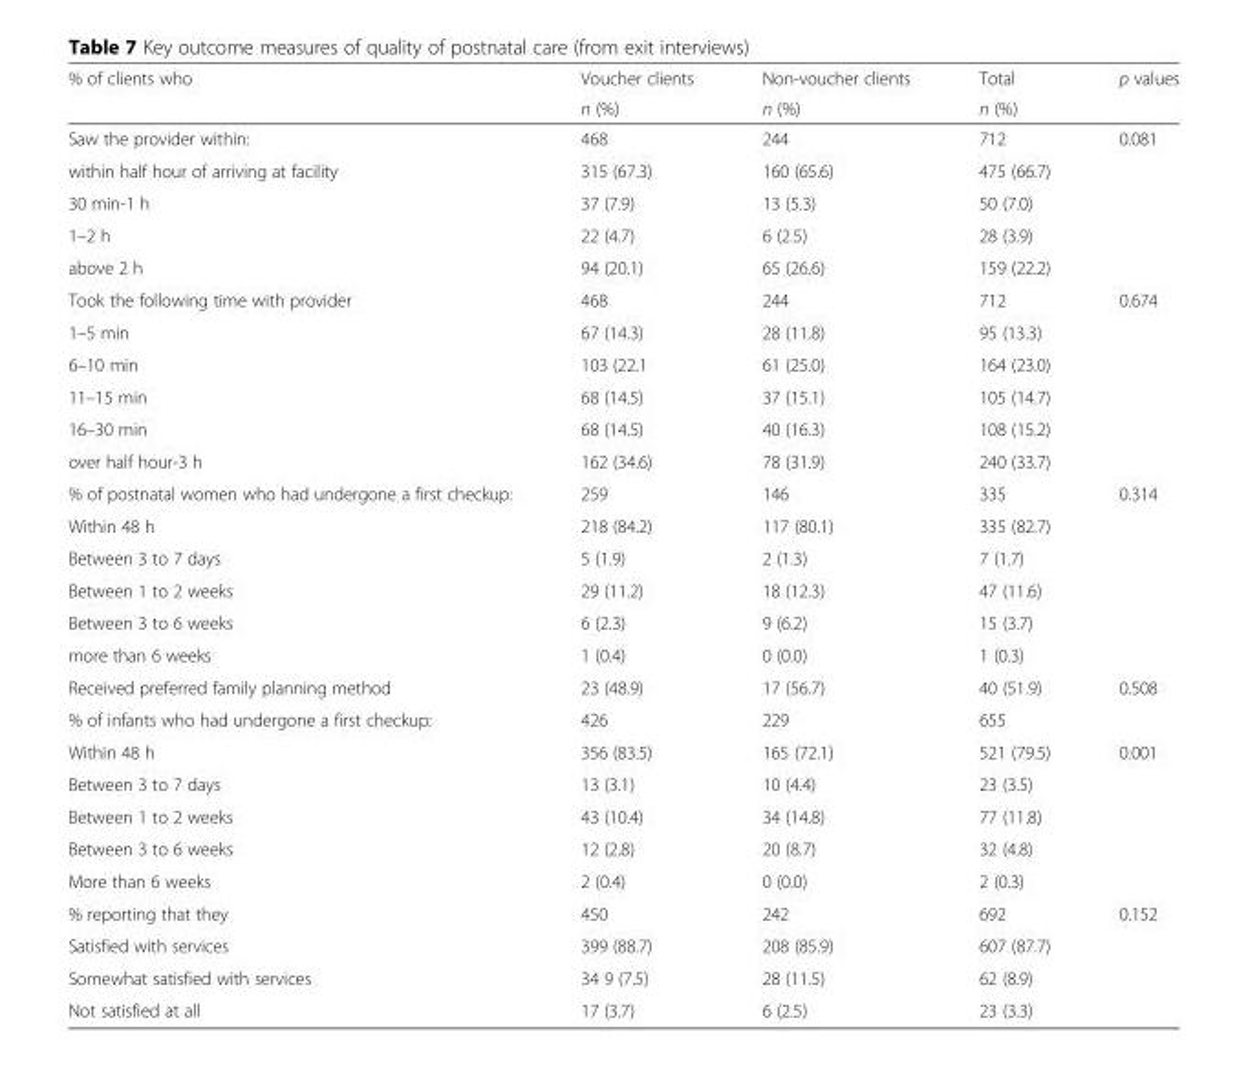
<table><thead><tr><td rowspan="2">% of clients who</td><td rowspan="2">Voucher clients n (%)</td><td rowspan="2">Non-voucher clients n (%)</td><td rowspan="2">Total n (%)</td><td rowspan="2">p values</td></tr><tr></tr></thead><tbody><tr><td>Saw the provider within:</td><td>468</td><td>244</td><td>712</td><td rowspan="5">0.081</td></tr><tr><td>within half hour of arriving at facility</td><td>315 (67.3)</td><td>160 (65.6)</td><td>475 (66.7)</td></tr><tr><td>30 min-1 h</td><td>37 (7.9)</td><td>13 (5.3)</td><td>50 (7.0)</td></tr><tr><td>1–2 h</td><td>22 (4.7)</td><td>6 (2.5)</td><td>28 (3.9)</td></tr><tr><td>above 2 h</td><td>94 (20.1)</td><td>65 (26.6)</td><td>159 (22.2)</td></tr><tr><td>Took the following time with provider</td><td>468</td><td>244</td><td>712</td><td rowspan="6">0.674</td></tr><tr><td>1–5 min</td><td>67 (14.3)</td><td>28 (11.8)</td><td>95 (13.3)</td></tr><tr><td>6–10 min</td><td>103 (22.1</td><td>61 (25.0)</td><td>164 (23.0)</td></tr><tr><td>11–15 min</td><td>68 (14.5)</td><td>37 (15.1)</td><td>105 (14.7)</td></tr><tr><td>16–30 min</td><td>68 (14.5)</td><td>40 (16.3)</td><td>108 (15.2)</td></tr><tr><td>over half hour-3 h</td><td>162 (34.6)</td><td>78 (31.9)</td><td>240 (33.7)</td></tr><tr><td>% of postnatal women who had undergone a first checkup:</td><td>259</td><td>146</td><td>335</td><td rowspan="6">0.314</td></tr><tr><td>Within 48 h</td><td>218 (84.2)</td><td>117 (80.1)</td><td>335 (82.7)</td></tr><tr><td>Between 3 to 7 days</td><td>5 (1.9)</td><td>2 (1.3)</td><td>7 (1.7)</td></tr><tr><td>Between 1 to 2 weeks</td><td>29 (11.2)</td><td>18 (12.3)</td><td>47 (11.6)</td></tr><tr><td>Between 3 to 6 weeks</td><td>6 (2.3)</td><td>9 (6.2)</td><td>15 (3.7)</td></tr><tr><td>more than 6 weeks</td><td>1 (0.4)</td><td>0 (0.0)</td><td>1 (0.3)</td></tr><tr><td>Received preferred family planning method</td><td>23 (48.9)</td><td>17 (56.7)</td><td>40 (51.9)</td><td>0.508</td></tr><tr><td>% of infants who had undergone a first checkup:</td><td>426</td><td>229</td><td>655</td><td></td></tr><tr><td>Within 48 h</td><td>356 (83.5)</td><td>165 (72.1)</td><td>521 (79.5)</td><td rowspan="5">0.001</td></tr><tr><td>Between 3 to 7 days</td><td>13 (3.1)</td><td>10 (4.4)</td><td>23 (3.5)</td></tr><tr><td>Between 1 to 2 weeks</td><td>43 (10.4)</td><td>34 (14.8)</td><td>77 (11.8)</td></tr><tr><td>Between 3 to 6 weeks</td><td>12 (2.8)</td><td>20 (8.7)</td><td>32 (4.8)</td></tr><tr><td>More than 6 weeks</td><td>2 (0.4)</td><td>0 (0.0)</td><td>2 (0.3)</td></tr><tr><td>% reporting that they</td><td>450</td><td>242</td><td>692</td><td rowspan="4">0.152</td></tr><tr><td>Satisfied with services</td><td>399 (88.7)</td><td>208 (85.9)</td><td>607 (87.7)</td></tr><tr><td>Somewhat satisfied with services</td><td>34 9 (7.5)</td><td>28 (11.5)</td><td>62 (8.9)</td></tr><tr><td>Not satisfied at all</td><td>17 (3.7)</td><td>6 (2.5)</td><td>23 (3.3)</td></tr></tbody></table>